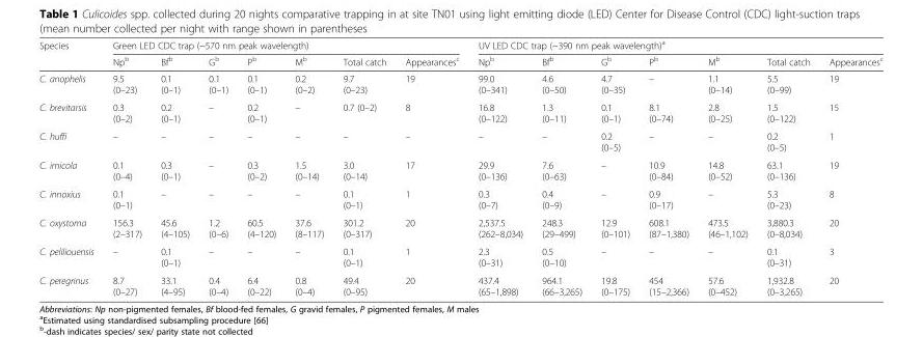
<table><thead><tr><td rowspan="2">Species</td><td colspan="7">Green LED CDC trap (~570 nm peak wavelength)</td><td colspan="7">UV LED CDC trap (~390 nm peak wavelength)<sup>a</sup></td></tr><tr><td>Np<sup>b</sup></td><td>Bf<sup>b</sup></td><td>G<sup>b</sup></td><td>P<sup>b</sup></td><td>M<sup>b</sup></td><td>Total catch</td><td>Appearances<sup>c</sup></td><td>Np<sup>b</sup></td><td>Bf<sup>b</sup></td><td>G<sup>b</sup></td><td>P<sup>b</sup></td><td>M<sup>b</sup></td><td>Total catch</td><td>Appearances<sup>c</sup></td></tr></thead><tbody><tr><td>C. anophelis</td><td>9.5 (0–23)</td><td>0.1 (0–1)</td><td>0.1 (0–1)</td><td>0.1 (0–1)</td><td>0.2 (0–2)</td><td>9.7 (0–23)</td><td>19</td><td>99.0 (0–341)</td><td>4.6 (0–50)</td><td>4.7 (0–35)</td><td>–</td><td>1.1 (0–14)</td><td>5.5 (0–99)</td><td>19</td></tr><tr><td>C. brevitarsis</td><td>0.3 (0–2)</td><td>0.2 (0–1)</td><td>–</td><td>0.2 (0–1)</td><td>–</td><td>0.7 (0–2)</td><td>8</td><td>16.8 (0–122)</td><td>1.3 (0–11)</td><td>0.1 (0–1)</td><td>8.1 (0–74)</td><td>2.8 (0–25)</td><td>1.5 (0–122)</td><td>15</td></tr><tr><td>C. huffi</td><td>–</td><td>–</td><td>–</td><td>–</td><td>–</td><td>–</td><td>–</td><td>–</td><td>–</td><td>0.2 (0–5)</td><td>–</td><td>–</td><td>0.2 (0–5)</td><td>1</td></tr><tr><td>C. imicola</td><td>0.1 (0–4)</td><td>0.3 (0–1)</td><td>–</td><td>0.3 (0–2)</td><td>1.5 (0–14)</td><td>3.0 (0–14)</td><td>17</td><td>29.9 (0–136)</td><td>7.6 (0–63)</td><td>–</td><td>10.9 (0–84)</td><td>14.8 (0–52)</td><td>63.1 (0–136)</td><td>19</td></tr><tr><td>C. innoxius</td><td>0.1 (0–1)</td><td>–</td><td>–</td><td>–</td><td>–</td><td>0.1 (0–1)</td><td>1</td><td>0.3 (0–7)</td><td>0.4 (0–9)</td><td>–</td><td>0.9 (0–17)</td><td>–</td><td>5.3 (0–23)</td><td>8</td></tr><tr><td>C. oxystoma</td><td>156.3 (2–317)</td><td>45.6 (4–105)</td><td>1.2 (0–6)</td><td>60.5 (4–120)</td><td>37.6 (8–117)</td><td>301.2 (0–317)</td><td>20</td><td>2,537.5 (262–8,034)</td><td>248.3 (29–499)</td><td>12.9 (0–101)</td><td>608.1 (87–1,380)</td><td>473.5 (46–1,102)</td><td>3,880.3 (0–8,034)</td><td>20</td></tr><tr><td>C. peliliouensis</td><td>–</td><td>0.1 (0–1)</td><td>–</td><td>–</td><td>–</td><td>0.1 (0–1)</td><td>1</td><td>2.3 (0–31)</td><td>0.5 (0–10)</td><td>–</td><td>–</td><td>–</td><td>0.1 (0–31)</td><td>3</td></tr><tr><td>C. peregrinus</td><td>8.7 (0–27)</td><td>33.1 (4–95)</td><td>0.4 (0–4)</td><td>6.4 (0–22)</td><td>0.8 (0–4)</td><td>49.4 (0–95)</td><td>20</td><td>437.4 (65–1,898)</td><td>964.1 (66–3,265)</td><td>19.8 (0–175)</td><td>454 (15–2,366)</td><td>57.6 (0–452)</td><td>1,932.8 (0–3,265)</td><td>20</td></tr></tbody></table>